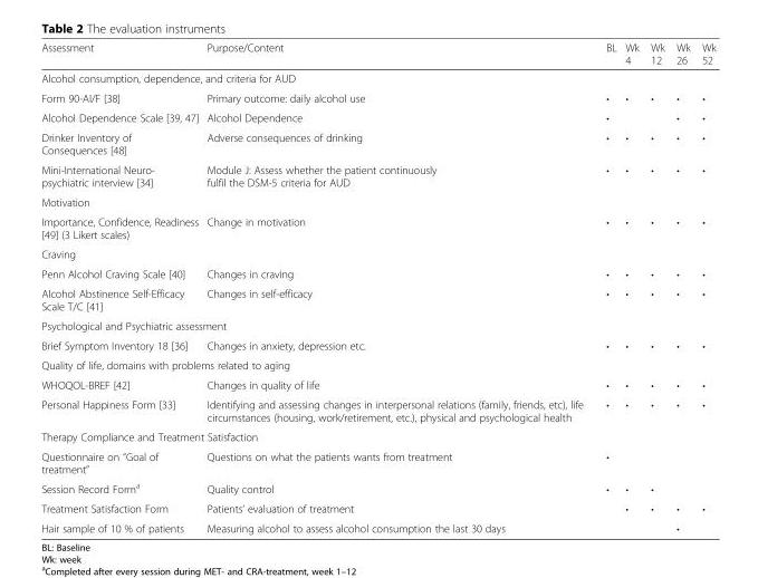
<table><thead><tr><td>Assessment</td><td>Purpose/Content</td><td>BL</td><td>Wk 4</td><td>Wk 12</td><td>Wk 26</td><td>Wk 52</td></tr></thead><tbody><tr><td colspan="7">Alcohol consumption, dependence, and criteria for AUD</td></tr><tr><td>Form 90-AI/F [38]</td><td>Primary outcome: daily alcohol use</td><td>•</td><td>•</td><td>•</td><td>•</td><td>•</td></tr><tr><td>Alcohol Dependence Scale [39, 47]</td><td>Alcohol Dependence</td><td>•</td><td></td><td></td><td>•</td><td>•</td></tr><tr><td>Drinker Inventory of Consequences [48]</td><td>Adverse consequences of drinking</td><td>•</td><td>•</td><td>•</td><td>•</td><td>•</td></tr><tr><td>Mini-International Neuro- psychiatric interview [34]</td><td>Module J: Assess whether the patient continuously fulfil the DSM-5 criteria for AUD</td><td>•</td><td>•</td><td>•</td><td>•</td><td>•</td></tr><tr><td colspan="7">Motivation</td></tr><tr><td>Importance, Confidence, Readiness [49] (3 Likert scales)</td><td>Change in motivation</td><td>•</td><td>•</td><td>•</td><td>•</td><td>•</td></tr><tr><td colspan="7">Craving</td></tr><tr><td>Penn Alcohol Craving Scale [40]</td><td>Changes in craving</td><td>•</td><td>•</td><td>•</td><td>•</td><td>•</td></tr><tr><td>Alcohol Abstinence Self-Efficacy Scale T/C [41]</td><td>Changes in self-efficacy</td><td>•</td><td>•</td><td>•</td><td>•</td><td>•</td></tr><tr><td colspan="7">Psychological and Psychiatric assessment</td></tr><tr><td>Brief Symptom Inventory 18 [36]</td><td>Changes in anxiety, depression etc.</td><td>•</td><td>•</td><td>•</td><td>•</td><td>•</td></tr><tr><td colspan="7">Quality of life, domains with problems related to aging</td></tr><tr><td>WHOQOL-BREF [42]</td><td>Changes in quality of life</td><td>•</td><td>•</td><td>•</td><td>•</td><td>•</td></tr><tr><td>Personal Happiness Form [33]</td><td>Identifying and assessing changes in interpersonal relations (family, friends, etc), life circumstances (housing, work/retirement, etc.), physical and psychological health</td><td>•</td><td>•</td><td>•</td><td>•</td><td>•</td></tr><tr><td colspan="7">Therapy Compliance and Treatment Satisfaction</td></tr><tr><td>Questionnaire on “Goal of treatment”</td><td>Questions on what the patients wants from treatment</td><td>•</td><td></td><td></td><td></td><td></td></tr><tr><td>Session Record Form<sup>a</sup></td><td>Quality control</td><td>•</td><td>•</td><td>•</td><td></td><td></td></tr><tr><td>Treatment Satisfaction Form</td><td>Patients’ evaluation of treatment</td><td></td><td>•</td><td>•</td><td>•</td><td>•</td></tr><tr><td>Hair sample of 10 % of patients</td><td>Measuring alcohol to assess alcohol consumption the last 30 days</td><td></td><td></td><td></td><td>•</td><td></td></tr></tbody></table>